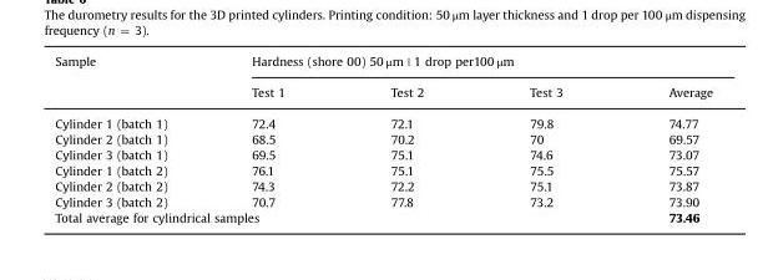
<table><thead><tr><td rowspan="2">Sample</td><td colspan="4">Hardness (shore 00) 50 μm | 1 drop per100 μm</td></tr><tr><td>Test 1</td><td>Test 2</td><td>Test 3</td><td>Average</td></tr></thead><tbody><tr><td>Cylinder 1 (batch 1)</td><td>72.4</td><td>72.1</td><td>79.8</td><td>74.77</td></tr><tr><td>Cylinder 2 (batch 1)</td><td>68.5</td><td>70.2</td><td>70</td><td>69.57</td></tr><tr><td>Cylinder 3 (batch 1)</td><td>69.5</td><td>75.1</td><td>74.6</td><td>73.07</td></tr><tr><td>Cylinder 1 (batch 2)</td><td>76.1</td><td>75.1</td><td>75.5</td><td>75.57</td></tr><tr><td>Cylinder 2 (batch 2)</td><td>74.3</td><td>72.2</td><td>75.1</td><td>73.87</td></tr><tr><td>Cylinder 3 (batch 2)</td><td>70.7</td><td>77.8</td><td>73.2</td><td>73.90</td></tr><tr><td colspan="4">Total average for cylindrical samples</td><td>73.46</td></tr></tbody></table>